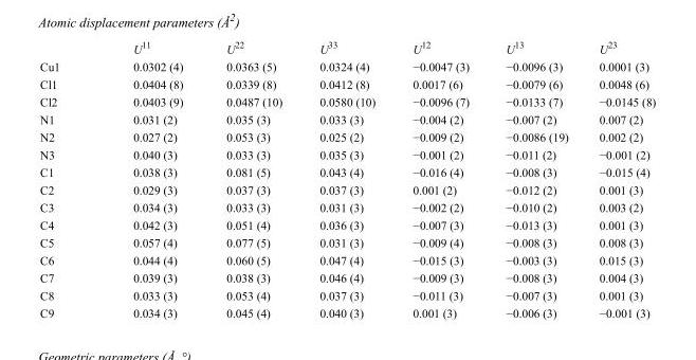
<table><thead><tr><td></td><td>U<sup>11</sup></td><td>U<sup>22</sup></td><td>U<sup>33</sup></td><td>U<sup>12</sup></td><td>U<sup>13</sup></td><td>U<sup>23</sup></td></tr></thead><tbody><tr><td>Cu1</td><td>0.0302 (4)</td><td>0.0363 (5)</td><td>0.0324 (4)</td><td>−0.0047 (3)</td><td>−0.0096 (3)</td><td>0.0001 (3)</td></tr><tr><td>Cl1</td><td>0.0404 (8)</td><td>0.0339 (8)</td><td>0.0412 (8)</td><td>0.0017 (6)</td><td>−0.0079 (6)</td><td>0.0048 (6)</td></tr><tr><td>Cl2</td><td>0.0403 (9)</td><td>0.0487 (10)</td><td>0.0580 (10)</td><td>−0.0096 (7)</td><td>−0.0133 (7)</td><td>−0.0145 (8)</td></tr><tr><td>N1</td><td>0.031 (2)</td><td>0.035 (3)</td><td>0.033 (3)</td><td>−0.004 (2)</td><td>−0.007 (2)</td><td>0.007 (2)</td></tr><tr><td>N2</td><td>0.027 (2)</td><td>0.053 (3)</td><td>0.025 (2)</td><td>−0.009 (2)</td><td>−0.0086 (19)</td><td>0.002 (2)</td></tr><tr><td>N3</td><td>0.040 (3)</td><td>0.033 (3)</td><td>0.035 (3)</td><td>−0.001 (2)</td><td>−0.011 (2)</td><td>−0.001 (2)</td></tr><tr><td>C1</td><td>0.038 (3)</td><td>0.081 (5)</td><td>0.043 (4)</td><td>−0.016 (4)</td><td>−0.008 (3)</td><td>−0.015 (4)</td></tr><tr><td>C2</td><td>0.029 (3)</td><td>0.037 (3)</td><td>0.037 (3)</td><td>0.001 (2)</td><td>−0.012 (2)</td><td>0.001 (3)</td></tr><tr><td>C3</td><td>0.034 (3)</td><td>0.033 (3)</td><td>0.031 (3)</td><td>−0.002 (2)</td><td>−0.010 (2)</td><td>0.003 (2)</td></tr><tr><td>C4</td><td>0.042 (3)</td><td>0.051 (4)</td><td>0.036 (3)</td><td>−0.007 (3)</td><td>−0.013 (3)</td><td>0.001 (3)</td></tr><tr><td>C5</td><td>0.057 (4)</td><td>0.077 (5)</td><td>0.031 (3)</td><td>−0.009 (4)</td><td>−0.008 (3)</td><td>0.008 (3)</td></tr><tr><td>C6</td><td>0.044 (4)</td><td>0.060 (5)</td><td>0.047 (4)</td><td>−0.015 (3)</td><td>−0.003 (3)</td><td>0.015 (3)</td></tr><tr><td>C7</td><td>0.039 (3)</td><td>0.038 (3)</td><td>0.046 (4)</td><td>−0.009 (3)</td><td>−0.008 (3)</td><td>0.004 (3)</td></tr><tr><td>C8</td><td>0.033 (3)</td><td>0.053 (4)</td><td>0.037 (3)</td><td>−0.011 (3)</td><td>−0.007 (3)</td><td>0.001 (3)</td></tr><tr><td>C9</td><td>0.034 (3)</td><td>0.045 (4)</td><td>0.040 (3)</td><td>0.001 (3)</td><td>−0.006 (3)</td><td>−0.001 (3)</td></tr></tbody></table>